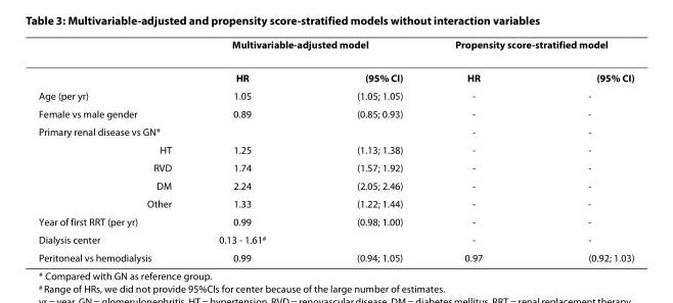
<table><thead><tr><td rowspan="2"></td><td colspan="2">Multivariable-adjusted model</td><td colspan="2">Propensity score-stratified model</td></tr><tr><td>HR</td><td>(95% CI)</td><td>HR</td><td>(95% CI)</td></tr></thead><tbody><tr><td>Age (per yr)</td><td>1.05</td><td>(1.05; 1.05)</td><td>-</td><td>-</td></tr><tr><td>Female vs male gender</td><td>0.89</td><td>(0.85; 0.93)</td><td>-</td><td>-</td></tr><tr><td>Primary renal disease vs GN*</td><td></td><td></td><td>-</td><td>-</td></tr><tr><td>HT</td><td>1.25</td><td>(1.13; 1.38)</td><td>-</td><td>-</td></tr><tr><td>RVD</td><td>1.74</td><td>(1.57; 1.92)</td><td>-</td><td>-</td></tr><tr><td>DM</td><td>2.24</td><td>(2.05; 2.46)</td><td>-</td><td>-</td></tr><tr><td>Other</td><td>1.33</td><td>(1.22; 1.44)</td><td>-</td><td>-</td></tr><tr><td>Year of first RRT (per yr)</td><td>0.99</td><td>(0.98; 1.00)</td><td>-</td><td>-</td></tr><tr><td>Dialysis center</td><td>0.13 - 1.61<sup>#</sup></td><td></td><td>-</td><td>-</td></tr><tr><td>Peritoneal vs hemodialysis</td><td>0.99</td><td>(0.94; 1.05)</td><td>0.97</td><td>(0.92; 1.03)</td></tr></tbody></table>